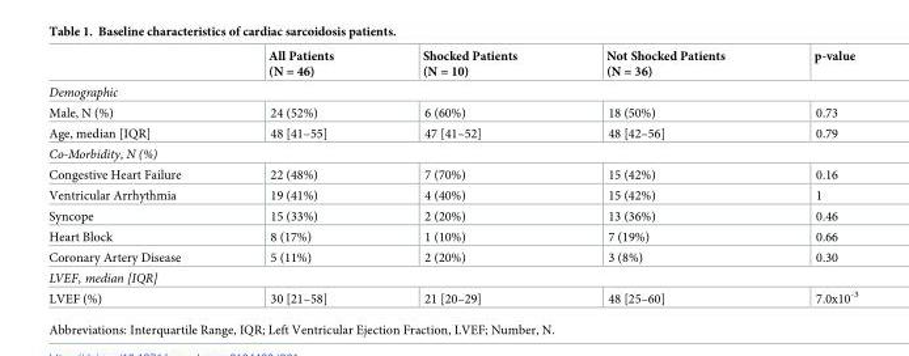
<table><thead><tr><td></td><td>All Patients (N = 46)</td><td>Shocked Patients (N = 10)</td><td>Not Shocked Patients (N = 36)</td><td>p-value</td></tr></thead><tbody><tr><td colspan="5">Demographic</td></tr><tr><td>Male, N (%)</td><td>24 (52%)</td><td>6 (60%)</td><td>18 (50%)</td><td>0.73</td></tr><tr><td>Age, median [IQR]</td><td>48 [41–55]</td><td>47 [41–52]</td><td>48 [42–56]</td><td>0.79</td></tr><tr><td colspan="5">Co-Morbidity, N (%)</td></tr><tr><td>Congestive Heart Failure</td><td>22 (48%)</td><td>7 (70%)</td><td>15 (42%)</td><td>0.16</td></tr><tr><td>Ventricular Arrhythmia</td><td>19 (41%)</td><td>4 (40%)</td><td>15 (42%)</td><td>1</td></tr><tr><td>Syncope</td><td>15 (33%)</td><td>2 (20%)</td><td>13 (36%)</td><td>0.46</td></tr><tr><td>Heart Block</td><td>8 (17%)</td><td>1 (10%)</td><td>7 (19%)</td><td>0.66</td></tr><tr><td>Coronary Artery Disease</td><td>5 (11%)</td><td>2 (20%)</td><td>3 (8%)</td><td>0.30</td></tr><tr><td colspan="5">LVEF, median [IQR]</td></tr><tr><td>LVEF (%)</td><td>30 [21–58]</td><td>21 [20–29]</td><td>48 [25–60]</td><td>7.0x10<sup>-3</sup></td></tr></tbody></table>